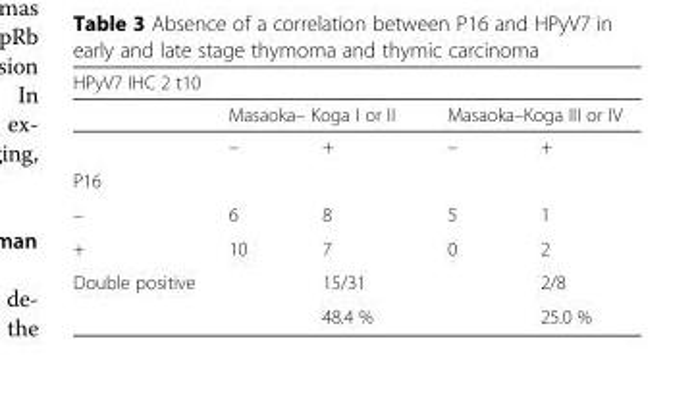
<table><thead><tr><td colspan="5">HPyV7 IHC 2 t10</td></tr><tr><td rowspan="2"></td><td colspan="2">Masaoka– Koga I or II</td><td colspan="2">Masaoka–Koga III or IV</td></tr><tr><td>–</td><td>+</td><td>–</td><td>+</td></tr></thead><tbody><tr><td colspan="5">P16</td></tr><tr><td>–</td><td>6</td><td>8</td><td>5</td><td>1</td></tr><tr><td>+</td><td>10</td><td>7</td><td>0</td><td>2</td></tr><tr><td rowspan="2">Double positive</td><td rowspan="2"></td><td>15/31</td><td rowspan="2"></td><td>2/8</td></tr><tr><td>48.4 %</td><td>25.0 %</td></tr></tbody></table>